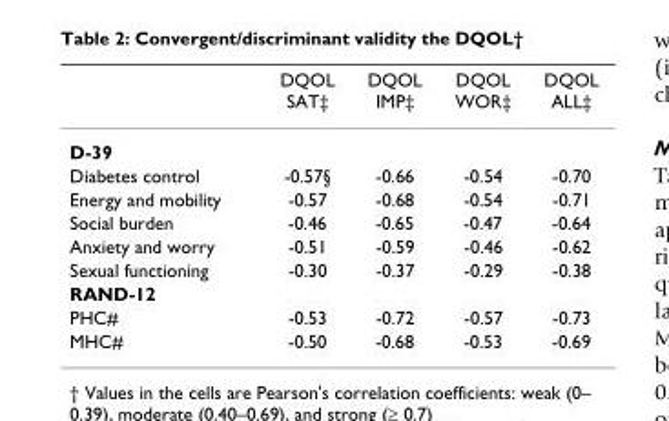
<table><thead><tr><td></td><td>DQOL SAT‡</td><td>DQOL IMP‡</td><td>DQOL WOR‡</td><td>DQOL ALL‡</td></tr></thead><tbody><tr><td colspan="5">D-39</td></tr><tr><td>Diabetes control</td><td>-0.57§</td><td>-0.66</td><td>-0.54</td><td>-0.70</td></tr><tr><td>Energy and mobility</td><td>-0.57</td><td>-0.68</td><td>-0.54</td><td>-0.71</td></tr><tr><td>Social burden</td><td>-0.46</td><td>-0.65</td><td>-0.47</td><td>-0.64</td></tr><tr><td>Anxiety and worry</td><td>-0.51</td><td>-0.59</td><td>-0.46</td><td>-0.62</td></tr><tr><td>Sexual functioning</td><td>-0.30</td><td>-0.37</td><td>-0.29</td><td>-0.38</td></tr><tr><td colspan="5">RAND-12</td></tr><tr><td>PHC#</td><td>-0.53</td><td>-0.72</td><td>-0.57</td><td>-0.73</td></tr><tr><td>MHC#</td><td>-0.50</td><td>-0.68</td><td>-0.53</td><td>-0.69</td></tr></tbody></table>